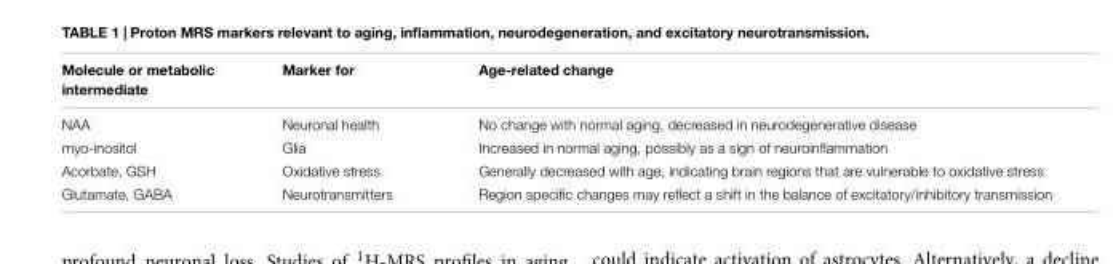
<table><thead><tr><td>Molecule or metabolic intermediate</td><td>Marker for</td><td>Age-related change</td></tr></thead><tbody><tr><td>NAA</td><td>Neuronal health</td><td>No change with normal aging, decreased in neurodegenerative disease</td></tr><tr><td>myo-inositol</td><td>Glia</td><td>Increased in normal aging, possibly as a sign of neuroinflammation</td></tr><tr><td>Acorbate, GSH</td><td>Oxidative stress</td><td>Generally decreased with age, indicating brain regions that are vulnerable to oxidative stress</td></tr><tr><td>Glutamate, GABA</td><td>Neurotransmitters</td><td>Region specific changes may reflect a shift in the balance of excitatory/inhibitory transmission</td></tr></tbody></table>